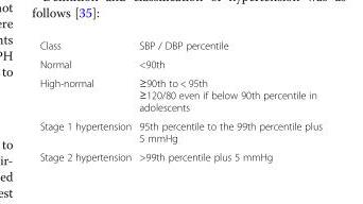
<table><tbody><tr><td>Class</td><td>SBP / DBP percentile</td></tr><tr><td>Normal</td><td>&lt;90th</td></tr><tr><td>High-normal</td><td>≥90th to &lt; 95th ≥120/80 even if below 90th percentile in adolescents</td></tr><tr><td>Stage 1 hypertension</td><td>95th percentile to the 99th percentile plus 5 mmHg</td></tr><tr><td>Stage 2 hypertension</td><td>&gt;99th percentile plus 5 mmHg</td></tr></tbody></table>